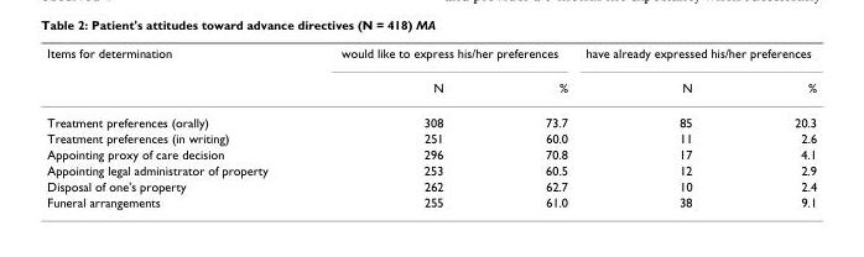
<table><thead><tr><td rowspan="2">Items for determination</td><td colspan="2">would like to express his/her preferences</td><td colspan="2">have already expressed his/her preferences</td></tr><tr><td>N</td><td>%</td><td>N</td><td>%</td></tr></thead><tbody><tr><td>Treatment preferences (orally)</td><td>308</td><td>73.7</td><td>85</td><td>20.3</td></tr><tr><td>Treatment preferences (in writing)</td><td>251</td><td>60.0</td><td>11</td><td>2.6</td></tr><tr><td>Appointing proxy of care decision</td><td>296</td><td>70.8</td><td>17</td><td>4.1</td></tr><tr><td>Appointing legal administrator of property</td><td>253</td><td>60.5</td><td>12</td><td>2.9</td></tr><tr><td>Disposal of one&#x27;s property</td><td>262</td><td>62.7</td><td>10</td><td>2.4</td></tr><tr><td>Funeral arrangements</td><td>255</td><td>61.0</td><td>38</td><td>9.1</td></tr></tbody></table>